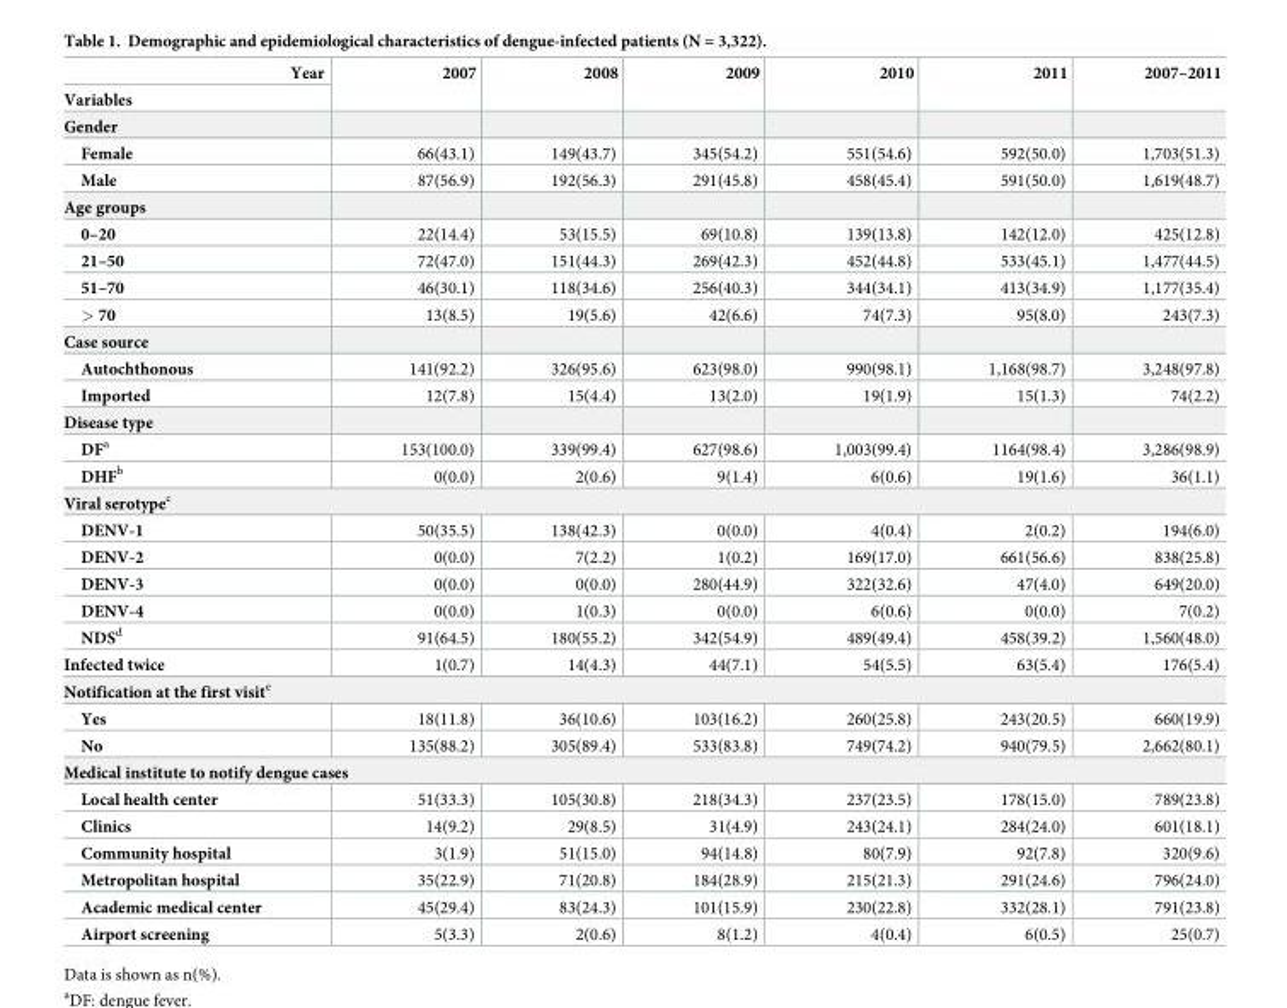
<table><thead><tr><td rowspan="2">Year Variables</td><td rowspan="2">2007</td><td rowspan="2">2008</td><td rowspan="2">2009</td><td rowspan="2">2010</td><td rowspan="2">2011</td><td rowspan="2">2007–2011</td></tr><tr></tr></thead><tbody><tr><td colspan="7">Gender</td></tr><tr><td>Female</td><td>66(43.1)</td><td>149(43.7)</td><td>345(54.2)</td><td>551(54.6)</td><td>592(50.0)</td><td>1,703(51.3)</td></tr><tr><td>Male</td><td>87(56.9)</td><td>192(56.3)</td><td>291(45.8)</td><td>458(45.4)</td><td>591(50.0)</td><td>1,619(48.7)</td></tr><tr><td colspan="7">Age groups</td></tr><tr><td>0–20</td><td>22(14.4)</td><td>53(15.5)</td><td>69(10.8)</td><td>139(13.8)</td><td>142(12.0)</td><td>425(12.8)</td></tr><tr><td>21–50</td><td>72(47.0)</td><td>151(44.3)</td><td>269(42.3)</td><td>452(44.8)</td><td>533(45.1)</td><td>1,477(44.5)</td></tr><tr><td>51–70</td><td>46(30.1)</td><td>118(34.6)</td><td>256(40.3)</td><td>344(34.1)</td><td>413(34.9)</td><td>1,177(35.4)</td></tr><tr><td>&gt; 70</td><td>13(8.5)</td><td>19(5.6)</td><td>42(6.6)</td><td>74(7.3)</td><td>95(8.0)</td><td>243(7.3)</td></tr><tr><td colspan="7">Case source</td></tr><tr><td>Autochthonous</td><td>141(92.2)</td><td>326(95.6)</td><td>623(98.0)</td><td>990(98.1)</td><td>1,168(98.7)</td><td>3,248(97.8)</td></tr><tr><td>Imported</td><td>12(7.8)</td><td>15(4.4)</td><td>13(2.0)</td><td>19(1.9)</td><td>15(1.3)</td><td>74(2.2)</td></tr><tr><td colspan="7">Disease type</td></tr><tr><td>DF<sup>a</sup></td><td>153(100.0)</td><td>339(99.4)</td><td>627(98.6)</td><td>1,003(99.4)</td><td>1164(98.4)</td><td>3,286(98.9)</td></tr><tr><td>DHF<sup>b</sup></td><td>0(0.0)</td><td>2(0.6)</td><td>9(1.4)</td><td>6(0.6)</td><td>19(1.6)</td><td>36(1.1)</td></tr><tr><td colspan="7">Viral serotype<sup>c</sup></td></tr><tr><td>DENV-1</td><td>50(35.5)</td><td>138(42.3)</td><td>0(0.0)</td><td>4(0.4)</td><td>2(0.2)</td><td>194(6.0)</td></tr><tr><td>DENV-2</td><td>0(0.0)</td><td>7(2.2)</td><td>1(0.2)</td><td>169(17.0)</td><td>661(56.6)</td><td>838(25.8)</td></tr><tr><td>DENV-3</td><td>0(0.0)</td><td>0(0.0)</td><td>280(44.9)</td><td>322(32.6)</td><td>47(4.0)</td><td>649(20.0)</td></tr><tr><td>DENV-4</td><td>0(0.0)</td><td>1(0.3)</td><td>0(0.0)</td><td>6(0.6)</td><td>0(0.0)</td><td>7(0.2)</td></tr><tr><td>NDS<sup>d</sup></td><td>91(64.5)</td><td>180(55.2)</td><td>342(54.9)</td><td>489(49.4)</td><td>458(39.2)</td><td>1,560(48.0)</td></tr><tr><td>Infected twice</td><td>1(0.7)</td><td>14(4.3)</td><td>44(7.1)</td><td>54(5.5)</td><td>63(5.4)</td><td>176(5.4)</td></tr><tr><td colspan="7">Notification at the first visit<sup>e</sup></td></tr><tr><td>Yes</td><td>18(11.8)</td><td>36(10.6)</td><td>103(16.2)</td><td>260(25.8)</td><td>243(20.5)</td><td>660(19.9)</td></tr><tr><td>No</td><td>135(88.2)</td><td>305(89.4)</td><td>533(83.8)</td><td>749(74.2)</td><td>940(79.5)</td><td>2,662(80.1)</td></tr><tr><td colspan="7">Medical institute to notify dengue cases</td></tr><tr><td>Local health center</td><td>51(33.3)</td><td>105(30.8)</td><td>218(34.3)</td><td>237(23.5)</td><td>178(15.0)</td><td>789(23.8)</td></tr><tr><td>Clinics</td><td>14(9.2)</td><td>29(8.5)</td><td>31(4.9)</td><td>243(24.1)</td><td>284(24.0)</td><td>601(18.1)</td></tr><tr><td>Community hospital</td><td>3(1.9)</td><td>51(15.0)</td><td>94(14.8)</td><td>80(7.9)</td><td>92(7.8)</td><td>320(9.6)</td></tr><tr><td>Metropolitan hospital</td><td>35(22.9)</td><td>71(20.8)</td><td>184(28.9)</td><td>215(21.3)</td><td>291(24.6)</td><td>796(24.0)</td></tr><tr><td>Academic medical center</td><td>45(29.4)</td><td>83(24.3)</td><td>101(15.9)</td><td>230(22.8)</td><td>332(28.1)</td><td>791(23.8)</td></tr><tr><td>Airport screening</td><td>5(3.3)</td><td>2(0.6)</td><td>8(1.2)</td><td>4(0.4)</td><td>6(0.5)</td><td>25(0.7)</td></tr></tbody></table>